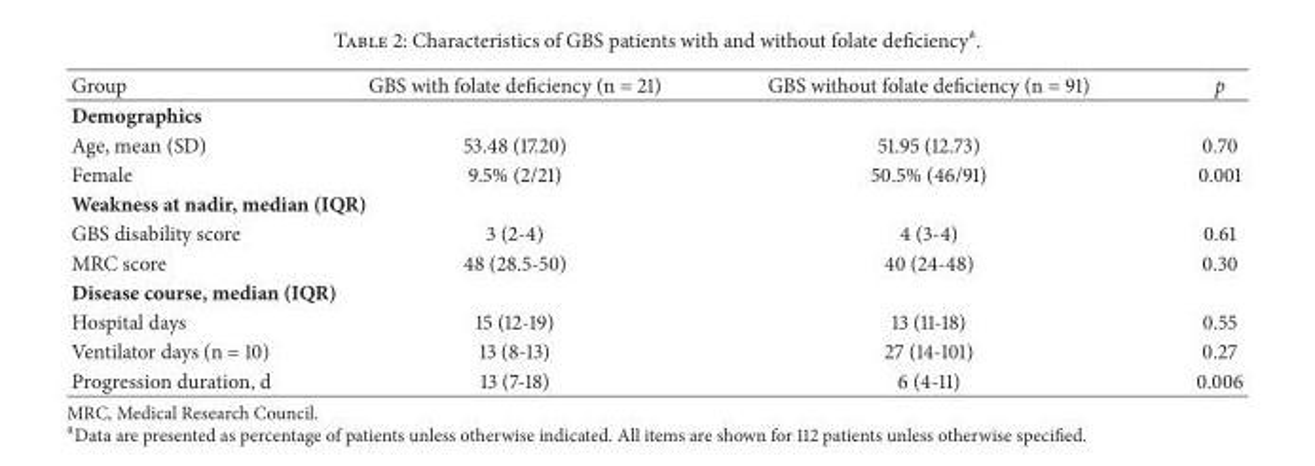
<table><thead><tr><td>Group</td><td>GBS with folate deficiency (n = 21)</td><td>GBS without folate deficiency (n = 91)</td><td>p</td></tr></thead><tbody><tr><td colspan="4">Demographics</td></tr><tr><td>Age, mean (SD)</td><td>53.48 (17.20)</td><td>51.95 (12.73)</td><td>0.70</td></tr><tr><td>Female</td><td>9.5% (2/21)</td><td>50.5% (46/91)</td><td>0.001</td></tr><tr><td colspan="4">Weakness at nadir, median (IQR)</td></tr><tr><td>GBS disability score</td><td>3 (2-4)</td><td>4 (3-4)</td><td>0.61</td></tr><tr><td>MRC score</td><td>48 (28.5-50)</td><td>40 (24-48)</td><td>0.30</td></tr><tr><td colspan="4">Disease course, median (IQR)</td></tr><tr><td>Hospital days</td><td>15 (12-19)</td><td>13 (11-18)</td><td>0.55</td></tr><tr><td>Ventilator days (n = 10)</td><td>13 (8-13)</td><td>27 (14-101)</td><td>0.27</td></tr><tr><td>Progression duration, d</td><td>13 (7-18)</td><td>6 (4-11)</td><td>0.006</td></tr></tbody></table>